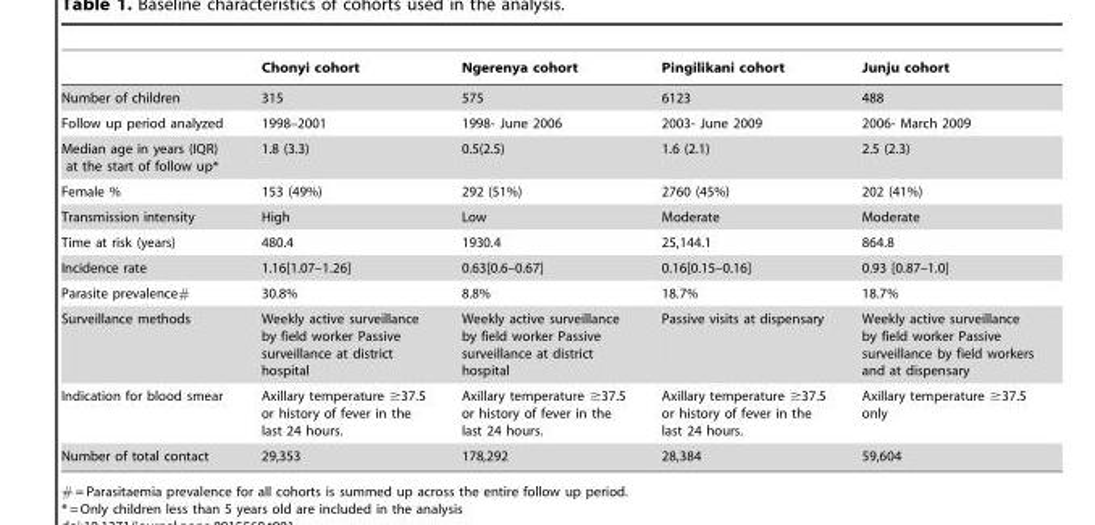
<table><thead><tr><td></td><td>Chonyi cohort</td><td>Ngerenya cohort</td><td>Pingilikani cohort</td><td>Junju cohort</td></tr></thead><tbody><tr><td>Number of children</td><td>315</td><td>575</td><td>6123</td><td>488</td></tr><tr><td>Follow up period analyzed</td><td>1998–2001</td><td>1998- June 2006</td><td>2003- June 2009</td><td>2006- March 2009</td></tr><tr><td>Median age in years (IQR) at the start of follow up*</td><td>1.8 (3.3)</td><td>0.5(2.5)</td><td>1.6 (2.1)</td><td>2.5 (2.3)</td></tr><tr><td>Female %</td><td>153 (49%)</td><td>292 (51%)</td><td>2760 (45%)</td><td>202 (41%)</td></tr><tr><td>Transmission intensity</td><td>High</td><td>Low</td><td>Moderate</td><td>Moderate</td></tr><tr><td>Time at risk (years)</td><td>480.4</td><td>1930.4</td><td>25,144.1</td><td>864.8</td></tr><tr><td>Incidence rate</td><td>1.16[1.07–1.26]</td><td>0.63[0.6–0.67]</td><td>0.16[0.15–0.16]</td><td>0.93 [0.87–1.0]</td></tr><tr><td>Parasite prevalence#</td><td>30.8%</td><td>8.8%</td><td>18.7%</td><td>18.7%</td></tr><tr><td>Surveillance methods</td><td>Weekly active surveillance by field worker Passive surveillance at district hospital</td><td>Weekly active surveillance by field worker Passive surveillance at district hospital</td><td>Passive visits at dispensary</td><td>Weekly active surveillance by field worker Passive surveillance by field workers and at dispensary</td></tr><tr><td>Indication for blood smear</td><td>Axillary temperature ≥37.5 or history of fever in the last 24 hours.</td><td>Axillary temperature ≥37.5 or history of fever in the last 24 hours.</td><td>Axillary temperature ≥37.5 or history of fever in the last 24 hours.</td><td>Axillary temperature ≥37.5 only</td></tr><tr><td>Number of total contact</td><td>29,353</td><td>178,292</td><td>28,384</td><td>59,604</td></tr></tbody></table>